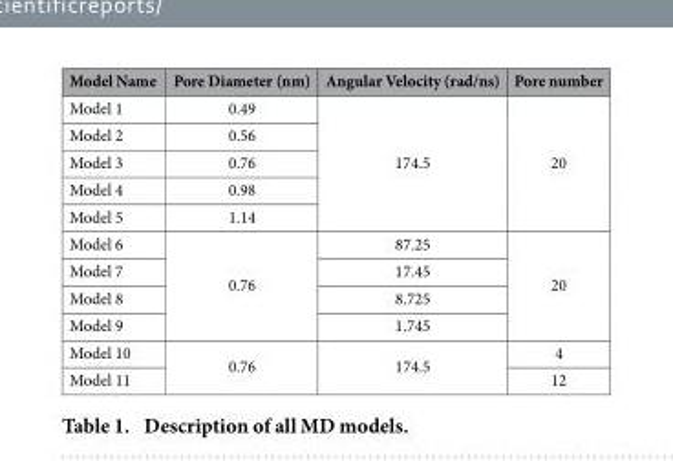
<table><thead><tr><td>Model Name</td><td>Pore Diameter (nm)</td><td>Angular Velocity (rad/ns)</td><td>Pore number</td></tr></thead><tbody><tr><td>Model 1</td><td>0.49</td><td rowspan="5">174.5</td><td rowspan="5">20</td></tr><tr><td>Model 2</td><td>0.56</td></tr><tr><td>Model 3</td><td>0.76</td></tr><tr><td>Model 4</td><td>0.98</td></tr><tr><td>Model 5</td><td>1.14</td></tr><tr><td>Model 6</td><td rowspan="4">0.76</td><td>87.25</td><td rowspan="4">20</td></tr><tr><td>Model 7</td><td>17.45</td></tr><tr><td>Model 8</td><td>8.725</td></tr><tr><td>Model 9</td><td>1.745</td></tr><tr><td>Model 10</td><td rowspan="2">0.76</td><td rowspan="2">174.5</td><td>4</td></tr><tr><td>Model 11</td><td>12</td></tr></tbody></table>